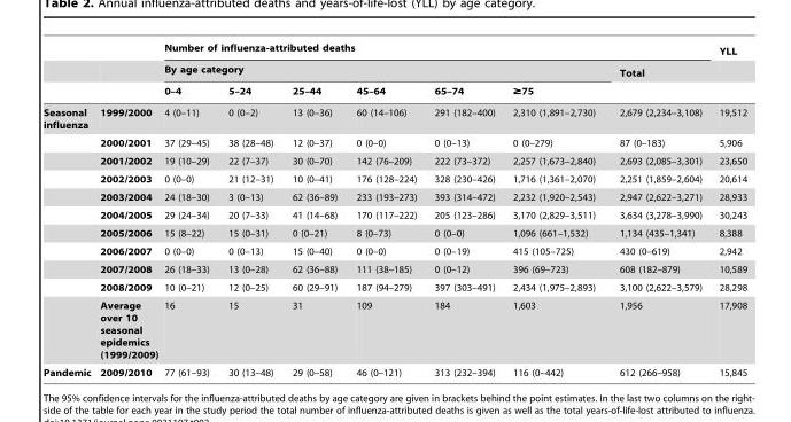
<table><thead><tr><td rowspan="3"></td><td rowspan="3"></td><td colspan="7">Number of influenza-attributed deaths</td><td rowspan="3">YLL</td></tr><tr><td colspan="6">By age category</td><td rowspan="2">Total</td></tr><tr><td>0–4</td><td>5–24</td><td>25–44</td><td>45–64</td><td>65–74</td><td>≥75</td></tr></thead><tbody><tr><td rowspan="11">Seasonal influenza</td><td>1999/2000</td><td>4 (0–11)</td><td>0 (0–2)</td><td>13 (0–36)</td><td>60 (14–106)</td><td>291 (182–400)</td><td>2,310 (1,891–2,730)</td><td>2,679 (2,234–3,108)</td><td>19,512</td></tr><tr><td>2000/2001</td><td>37 (29–45)</td><td>38 (28–48)</td><td>12 (0–37)</td><td>0 (0–0)</td><td>0 (0–13)</td><td>0 (0–279)</td><td>87 (0–183)</td><td>5,906</td></tr><tr><td>2001/2002</td><td>19 (10–29)</td><td>22 (7–37)</td><td>30 (0–70)</td><td>142 (76–209)</td><td>222 (73–372)</td><td>2,257 (1,673–2,840)</td><td>2,693 (2,085–3,301)</td><td>23,650</td></tr><tr><td>2002/2003</td><td>0 (0–0)</td><td>21 (12–31)</td><td>10 (0–41)</td><td>176 (128–224)</td><td>328 (230–426)</td><td>1,716 (1,361–2,070)</td><td>2,251 (1,859–2,604)</td><td>20,614</td></tr><tr><td>2003/2004</td><td>24 (18–30)</td><td>3 (0–13)</td><td>62 (36–89)</td><td>233 (193–273)</td><td>393 (314–472)</td><td>2,232 (1,920–2,543)</td><td>2,947 (2,622–3,271)</td><td>28,933</td></tr><tr><td>2004/2005</td><td>29 (24–34)</td><td>20 (7–33)</td><td>41 (14–68)</td><td>170 (117–222)</td><td>205 (123–286)</td><td>3,170 (2,829–3,511)</td><td>3,634 (3,278–3,990)</td><td>30,243</td></tr><tr><td>2005/2006</td><td>15 (8–22)</td><td>15 (0–31)</td><td>0 (0–21)</td><td>8 (0–73)</td><td>0 (0–0)</td><td>1,096 (661–1,532)</td><td>1,134 (435–1,341)</td><td>8,388</td></tr><tr><td>2006/2007</td><td>0 (0–0)</td><td>0 (0–13)</td><td>15 (0–40)</td><td>0 (0–0)</td><td>0 (0–19)</td><td>415 (105–725)</td><td>430 (0–619)</td><td>2,942</td></tr><tr><td>2007/2008</td><td>26 (18–33)</td><td>13 (0–28)</td><td>62 (36–88)</td><td>111 (38–185)</td><td>0 (0–12)</td><td>396 (69–723)</td><td>608 (182–879)</td><td>10,589</td></tr><tr><td>2008/2009</td><td>10 (0–21)</td><td>12 (0–25)</td><td>60 (29–91)</td><td>187 (94–279)</td><td>397 (303–491)</td><td>2,434 (1,975–2,893)</td><td>3,100 (2,622–3,579)</td><td>28,298</td></tr><tr><td>Average over 10 seasonal epidemics (1999/2009)</td><td>16</td><td>15</td><td>31</td><td>109</td><td>184</td><td>1,603</td><td>1,956</td><td>17,908</td></tr><tr><td>Pandemic</td><td>2009/2010</td><td>77 (61–93)</td><td>30 (13–48)</td><td>29 (0–58)</td><td>46 (0–121)</td><td>313 (232–394)</td><td>116 (0–442)</td><td>612 (266–958)</td><td>15,845</td></tr></tbody></table>